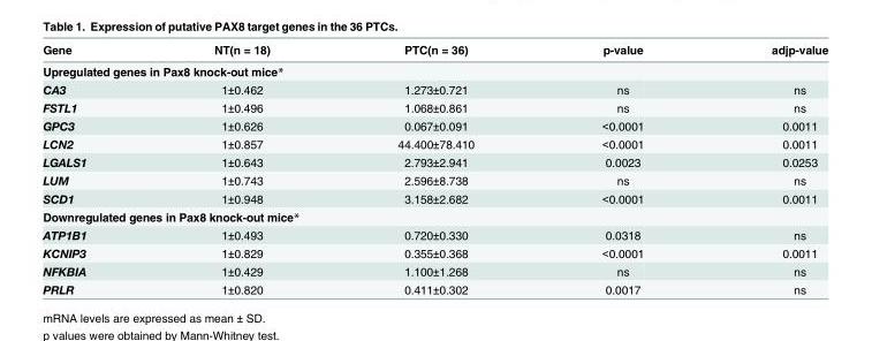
<table><thead><tr><td>Gene</td><td>NT(n = 18)</td><td>PTC(n = 36)</td><td>p-value</td><td>adjp-value</td></tr></thead><tbody><tr><td colspan="5">Upregulated genes in Pax8 knock-out mice*</td></tr><tr><td>CA3</td><td>1±0.462</td><td>1.273±0.721</td><td>ns</td><td>ns</td></tr><tr><td>FSTL1</td><td>1±0.496</td><td>1.068±0.861</td><td>ns</td><td>ns</td></tr><tr><td>GPC3</td><td>1±0.626</td><td>0.067±0.091</td><td>&lt;0.0001</td><td>0.0011</td></tr><tr><td>LCN2</td><td>1±0.857</td><td>44.400±78.410</td><td>&lt;0.0001</td><td>0.0011</td></tr><tr><td>LGALS1</td><td>1±0.643</td><td>2.793±2.941</td><td>0.0023</td><td>0.0253</td></tr><tr><td>LUM</td><td>1±0.743</td><td>2.596±8.738</td><td>ns</td><td>ns</td></tr><tr><td>SCD1</td><td>1±0.948</td><td>3.158±2.682</td><td>&lt;0.0001</td><td>0.0011</td></tr><tr><td colspan="5">Downregulated genes in Pax8 knock-out mice*</td></tr><tr><td>ATP1B1</td><td>1±0.493</td><td>0.720±0.330</td><td>0.0318</td><td>ns</td></tr><tr><td>KCNIP3</td><td>1±0.829</td><td>0.355±0.368</td><td>&lt;0.0001</td><td>0.0011</td></tr><tr><td>NFKBIA</td><td>1±0.429</td><td>1.100±1.268</td><td>ns</td><td>ns</td></tr><tr><td>PRLR</td><td>1±0.820</td><td>0.411±0.302</td><td>0.0017</td><td>ns</td></tr></tbody></table>